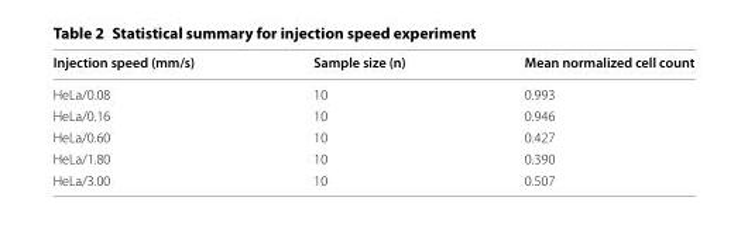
<table><thead><tr><td>Injection speed (mm/s)</td><td>Sample size (n)</td><td>Mean normalized cell count</td></tr></thead><tbody><tr><td>HeLa/0.08</td><td>10</td><td>0.993</td></tr><tr><td>HeLa/0.16</td><td>10</td><td>0.946</td></tr><tr><td>HeLa/0.60</td><td>10</td><td>0.427</td></tr><tr><td>HeLa/1.80</td><td>10</td><td>0.390</td></tr><tr><td>HeLa/3.00</td><td>10</td><td>0.507</td></tr></tbody></table>